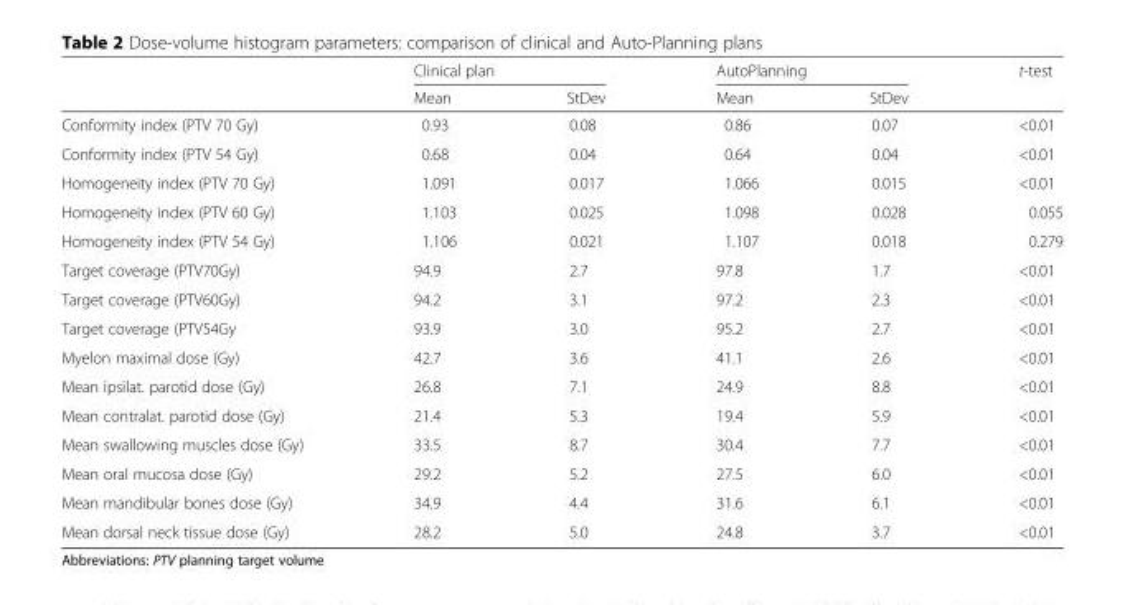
<table><thead><tr><td rowspan="2"></td><td colspan="2">Clinical plan</td><td colspan="2">AutoPlanning</td><td rowspan="2">t-test</td></tr><tr><td>Mean</td><td>StDev</td><td>Mean</td><td>StDev</td></tr></thead><tbody><tr><td>Conformity index (PTV 70 Gy)</td><td>0.93</td><td>0.08</td><td>0.86</td><td>0.07</td><td>&lt;0.01</td></tr><tr><td>Conformity index (PTV 54 Gy)</td><td>0.68</td><td>0.04</td><td>0.64</td><td>0.04</td><td>&lt;0.01</td></tr><tr><td>Homogeneity index (PTV 70 Gy)</td><td>1.091</td><td>0.017</td><td>1.066</td><td>0.015</td><td>&lt;0.01</td></tr><tr><td>Homogeneity index (PTV 60 Gy)</td><td>1.103</td><td>0.025</td><td>1.098</td><td>0.028</td><td>0.055</td></tr><tr><td>Homogeneity index (PTV 54 Gy)</td><td>1.106</td><td>0.021</td><td>1.107</td><td>0.018</td><td>0.279</td></tr><tr><td>Target coverage (PTV70Gy)</td><td>94.9</td><td>2.7</td><td>97.8</td><td>1.7</td><td>&lt;0.01</td></tr><tr><td>Target coverage (PTV60Gy)</td><td>94.2</td><td>3.1</td><td>97.2</td><td>2.3</td><td>&lt;0.01</td></tr><tr><td>Target coverage (PTV54Gy</td><td>93.9</td><td>3.0</td><td>95.2</td><td>2.7</td><td>&lt;0.01</td></tr><tr><td>Myelon maximal dose (Gy)</td><td>42.7</td><td>3.6</td><td>41.1</td><td>2.6</td><td>&lt;0.01</td></tr><tr><td>Mean ipsilat. parotid dose (Gy)</td><td>26.8</td><td>7.1</td><td>24.9</td><td>8.8</td><td>&lt;0.01</td></tr><tr><td>Mean contralat. parotid dose (Gy)</td><td>21.4</td><td>5.3</td><td>19.4</td><td>5.9</td><td>&lt;0.01</td></tr><tr><td>Mean swallowing muscles dose (Gy)</td><td>33.5</td><td>8.7</td><td>30.4</td><td>7.7</td><td>&lt;0.01</td></tr><tr><td>Mean oral mucosa dose (Gy)</td><td>29.2</td><td>5.2</td><td>27.5</td><td>6.0</td><td>&lt;0.01</td></tr><tr><td>Mean mandibular bones dose (Gy)</td><td>34.9</td><td>4.4</td><td>31.6</td><td>6.1</td><td>&lt;0.01</td></tr><tr><td>Mean dorsal neck tissue dose (Gy)</td><td>28.2</td><td>5.0</td><td>24.8</td><td>3.7</td><td>&lt;0.01</td></tr></tbody></table>